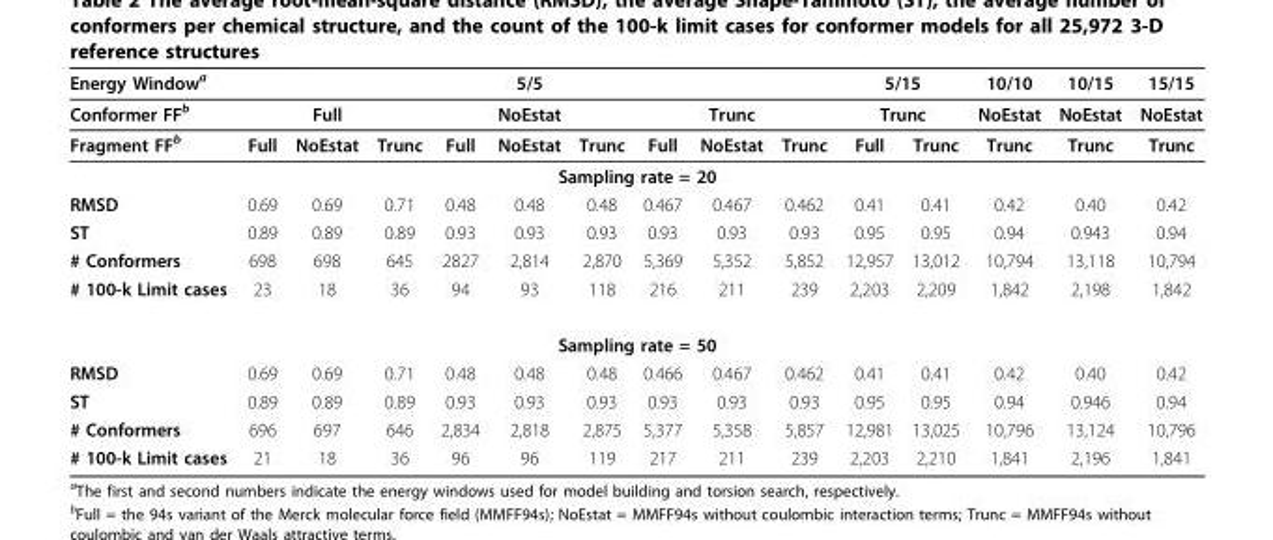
<table><thead><tr><td rowspan="3">Energy Windowa Conformer FFb Fragment FFb</td><td rowspan="3">Full</td><td rowspan="3">Full NoEstat</td><td rowspan="3">Trunc</td><td rowspan="3">Full</td><td rowspan="3">5/5 NoEstat NoEstat</td><td rowspan="3">Trunc</td><td rowspan="3">Full</td><td rowspan="3">Trunc NoEstat</td><td rowspan="3">Trunc</td><td rowspan="2" colspan="2">5/15 Trunc</td><td rowspan="3">10/10 NoEstat Trunc</td><td rowspan="3">10/15 NoEstat Trunc</td><td rowspan="3">15/15 NoEstat Trunc</td></tr><tr></tr><tr><td>Full</td><td>Trunc</td></tr></thead><tbody><tr><td colspan="15">Sampling rate = 20</td></tr><tr><td>RMSD</td><td>0.69</td><td>0.69</td><td>0.71</td><td>0.48</td><td>0.48</td><td>0.48</td><td>0.467</td><td>0.467</td><td>0.462</td><td>0.41</td><td>0.41</td><td>0.42</td><td>0.40</td><td>0.42</td></tr><tr><td>ST</td><td>0.89</td><td>0.89</td><td>0.89</td><td>0.93</td><td>0.93</td><td>0.93</td><td>0.93</td><td>0.93</td><td>0.93</td><td>0.95</td><td>0.95</td><td>0.94</td><td>0.943</td><td>0.94</td></tr><tr><td># Conformers</td><td>698</td><td>698</td><td>645</td><td>2827</td><td>2,814</td><td>2,870</td><td>5,369</td><td>5,352</td><td>5,852</td><td>12,957</td><td>13,012</td><td>10,794</td><td>13,118</td><td>10,794</td></tr><tr><td># 100-k Limit cases</td><td>23</td><td>18</td><td>36</td><td>94</td><td>93</td><td>118</td><td>216</td><td>211</td><td>239</td><td>2,203</td><td>2,209</td><td>1,842</td><td>2,198</td><td>1,842</td></tr><tr><td colspan="15">Sampling rate = 50</td></tr><tr><td>RMSD</td><td>0.69</td><td>0.69</td><td>0.71</td><td>0.48</td><td>0.48</td><td>0.48</td><td>0.466</td><td>0.467</td><td>0.462</td><td>0.41</td><td>0.41</td><td>0.42</td><td>0.40</td><td>0.42</td></tr><tr><td>ST</td><td>0.89</td><td>0.89</td><td>0.89</td><td>0.93</td><td>0.93</td><td>0.93</td><td>0.93</td><td>0.93</td><td>0.93</td><td>0.95</td><td>0.95</td><td>0.94</td><td>0.946</td><td>0.94</td></tr><tr><td># Conformers</td><td>696</td><td>697</td><td>646</td><td>2,834</td><td>2,818</td><td>2,875</td><td>5,377</td><td>5,358</td><td>5,857</td><td>12,981</td><td>13,025</td><td>10,796</td><td>13,124</td><td>10,796</td></tr><tr><td># 100-k Limit cases</td><td>21</td><td>18</td><td>36</td><td>96</td><td>96</td><td>119</td><td>217</td><td>211</td><td>239</td><td>2,203</td><td>2,210</td><td>1,841</td><td>2,196</td><td>1,841</td></tr></tbody></table>